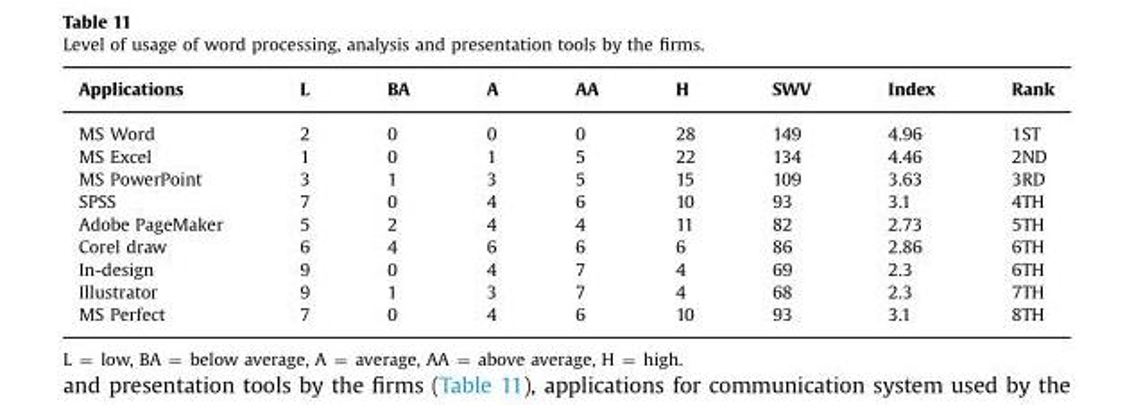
<table><thead><tr><td>Applications</td><td>L</td><td>BA</td><td>A</td><td>AA</td><td>H</td><td>SWV</td><td>Index</td><td>Rank</td></tr></thead><tbody><tr><td>MS Word</td><td>2</td><td>0</td><td>0</td><td>0</td><td>28</td><td>149</td><td>4.96</td><td>1ST</td></tr><tr><td>MS Excel</td><td>1</td><td>0</td><td>1</td><td>5</td><td>22</td><td>134</td><td>4.46</td><td>2ND</td></tr><tr><td>MS PowerPoint</td><td>3</td><td>1</td><td>3</td><td>5</td><td>15</td><td>109</td><td>3.63</td><td>3RD</td></tr><tr><td>SPSS</td><td>7</td><td>0</td><td>4</td><td>6</td><td>10</td><td>93</td><td>3.1</td><td>4TH</td></tr><tr><td>Adobe PageMaker</td><td>5</td><td>2</td><td>4</td><td>4</td><td>11</td><td>82</td><td>2.73</td><td>5TH</td></tr><tr><td>Corel draw</td><td>6</td><td>4</td><td>6</td><td>6</td><td>6</td><td>86</td><td>2.86</td><td>6TH</td></tr><tr><td>In-design</td><td>9</td><td>0</td><td>4</td><td>7</td><td>4</td><td>69</td><td>2.3</td><td>6TH</td></tr><tr><td>Illustrator</td><td>9</td><td>1</td><td>3</td><td>7</td><td>4</td><td>68</td><td>2.3</td><td>7TH</td></tr><tr><td>MS Perfect</td><td>7</td><td>0</td><td>4</td><td>6</td><td>10</td><td>93</td><td>3.1</td><td>8TH</td></tr></tbody></table>